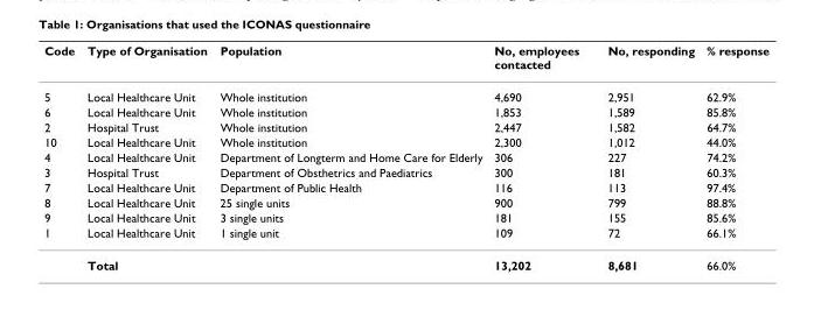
<table><thead><tr><td>Code</td><td>Type of Organisation</td><td>Population</td><td>No, employees contacted</td><td>No, responding</td><td>% response</td></tr></thead><tbody><tr><td>5</td><td>Local Healthcare Unit</td><td>Whole institution</td><td>4,690</td><td>2,951</td><td>62.9%</td></tr><tr><td>6</td><td>Local Healthcare Unit</td><td>Whole institution</td><td>1,853</td><td>1,589</td><td>85.8%</td></tr><tr><td>2</td><td>Hospital Trust</td><td>Whole institution</td><td>2,447</td><td>1,582</td><td>64.7%</td></tr><tr><td>10</td><td>Local Healthcare Unit</td><td>Whole institution</td><td>2,300</td><td>1,012</td><td>44.0%</td></tr><tr><td>4</td><td>Local Healthcare Unit</td><td>Department of Longterm and Home Care for Elderly</td><td>306</td><td>227</td><td>74.2%</td></tr><tr><td>3</td><td>Hospital Trust</td><td>Department of Obsthetrics and Paediatrics</td><td>300</td><td>181</td><td>60.3%</td></tr><tr><td>7</td><td>Local Healthcare Unit</td><td>Department of Public Health</td><td>116</td><td>113</td><td>97.4%</td></tr><tr><td>8</td><td>Local Healthcare Unit</td><td>25 single units</td><td>900</td><td>799</td><td>88.8%</td></tr><tr><td>9</td><td>Local Healthcare Unit</td><td>3 single units</td><td>181</td><td>155</td><td>85.6%</td></tr><tr><td rowspan="2">1</td><td>Local Healthcare Unit</td><td>1 single unit</td><td>109</td><td>72</td><td>66.1%</td></tr><tr><td colspan="2">Total</td><td>13,202</td><td>8,681</td><td>66.0%</td></tr></tbody></table>